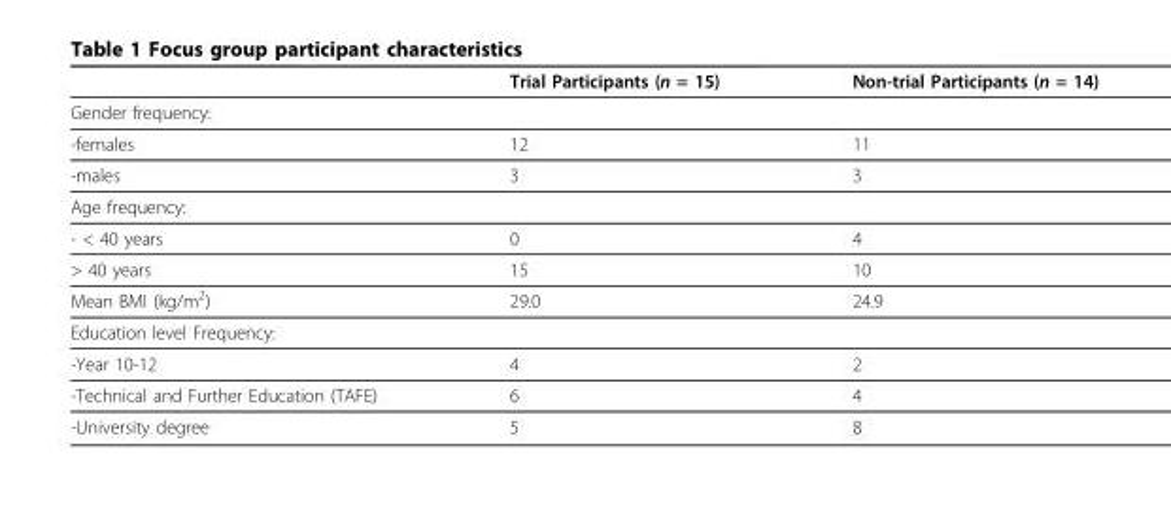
<table><thead><tr><td></td><td>Trial Participants (n = 15)</td><td>Non-trial Participants (n = 14)</td></tr></thead><tbody><tr><td colspan="3">Gender frequency:</td></tr><tr><td>-females</td><td>12</td><td>11</td></tr><tr><td>-males</td><td>3</td><td>3</td></tr><tr><td colspan="3">Age frequency:</td></tr><tr><td>- &lt; 40 years</td><td>0</td><td>4</td></tr><tr><td>&gt; 40 years</td><td>15</td><td>10</td></tr><tr><td>Mean BMI (kg/m<sup>2</sup>)</td><td>29.0</td><td>24.9</td></tr><tr><td colspan="3">Education level Frequency:</td></tr><tr><td>-Year 10-12</td><td>4</td><td>2</td></tr><tr><td>-Technical and Further Education (TAFE)</td><td>6</td><td>4</td></tr><tr><td>-University degree</td><td>5</td><td>8</td></tr></tbody></table>